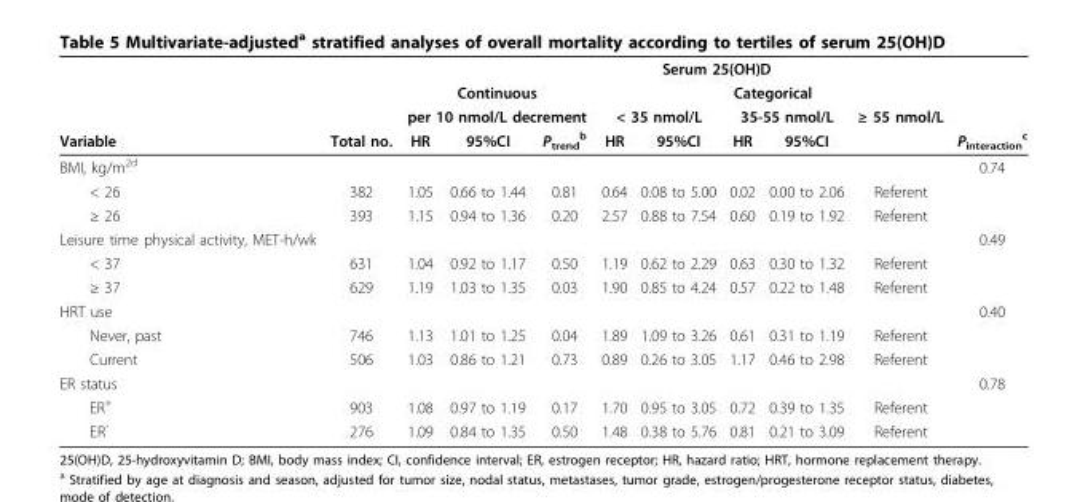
<table><thead><tr><td rowspan="4">Variable</td><td rowspan="4">Total no.</td><td colspan="9">Serum 25(OH)D</td></tr><tr><td rowspan="2" colspan="3">Continuous per 10 nmol/L decrement</td><td colspan="5">Categorical</td><td rowspan="3">P<sub>interaction</sub> <sup>c</sup></td></tr><tr><td colspan="2">&lt; 35 nmol/L</td><td colspan="2">35-55 nmol/L</td><td rowspan="2">≥ 55 nmol/L</td></tr><tr><td>HR</td><td>95%CI</td><td>P<sub>trend</sub> <sup>b</sup></td><td>HR</td><td>95%CI</td><td>HR</td><td>95%CI</td></tr></thead><tbody><tr><td>BMI, kg/m<sup>2d</sup></td><td></td><td></td><td></td><td></td><td></td><td></td><td></td><td></td><td></td><td>0.74</td></tr><tr><td>&lt; 26</td><td>382</td><td>1.05</td><td>0.66 to 1.44</td><td>0.81</td><td>0.64</td><td>0.08 to 5.00</td><td>0.02</td><td>0.00 to 2.06</td><td>Referent</td><td></td></tr><tr><td>≥ 26</td><td>393</td><td>1.15</td><td>0.94 to 1.36</td><td>0.20</td><td>2.57</td><td>0.88 to 7.54</td><td>0.60</td><td>0.19 to 1.92</td><td>Referent</td><td></td></tr><tr><td>Leisure time physical activity, MET-h/wk</td><td></td><td></td><td></td><td></td><td></td><td></td><td></td><td></td><td></td><td>0.49</td></tr><tr><td>&lt; 37</td><td>631</td><td>1.04</td><td>0.92 to 1.17</td><td>0.50</td><td>1.19</td><td>0.62 to 2.29</td><td>0.63</td><td>0.30 to 1.32</td><td>Referent</td><td></td></tr><tr><td>≥ 37</td><td>629</td><td>1.19</td><td>1.03 to 1.35</td><td>0.03</td><td>1.90</td><td>0.85 to 4.24</td><td>0.57</td><td>0.22 to 1.48</td><td>Referent</td><td></td></tr><tr><td>HRT use</td><td></td><td></td><td></td><td></td><td></td><td></td><td></td><td></td><td></td><td>0.40</td></tr><tr><td>Never, past</td><td>746</td><td>1.13</td><td>1.01 to 1.25</td><td>0.04</td><td>1.89</td><td>1.09 to 3.26</td><td>0.61</td><td>0.31 to 1.19</td><td>Referent</td><td></td></tr><tr><td>Current</td><td>506</td><td>1.03</td><td>0.86 to 1.21</td><td>0.73</td><td>0.89</td><td>0.26 to 3.05</td><td>1.17</td><td>0.46 to 2.98</td><td>Referent</td><td></td></tr><tr><td>ER status</td><td></td><td></td><td></td><td></td><td></td><td></td><td></td><td></td><td></td><td>0.78</td></tr><tr><td>ER<sup>+</sup></td><td>903</td><td>1.08</td><td>0.97 to 1.19</td><td>0.17</td><td>1.70</td><td>0.95 to 3.05</td><td>0.72</td><td>0.39 to 1.35</td><td>Referent</td><td></td></tr><tr><td>ER<sup>-</sup></td><td>276</td><td>1.09</td><td>0.84 to 1.35</td><td>0.50</td><td>1.48</td><td>0.38 to 5.76</td><td>0.81</td><td>0.21 to 3.09</td><td>Referent</td><td></td></tr></tbody></table>